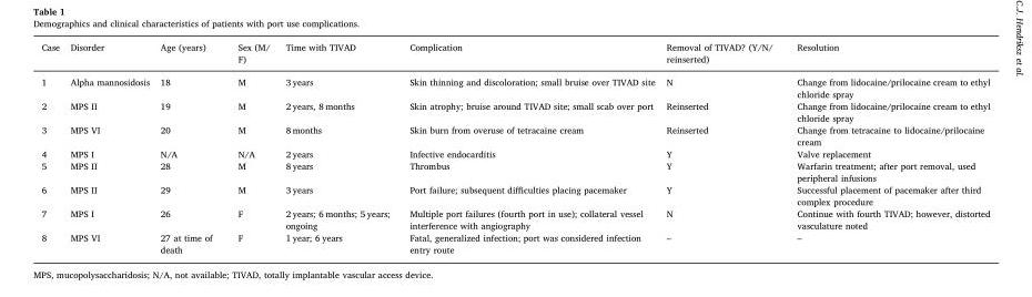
<table><thead><tr><td>Case</td><td>Disorder</td><td>Age (years)</td><td>Sex (M/ F)</td><td>Time with TIVAD</td><td>Complication</td><td>Removal of TIVAD? (Y/N/ reinserted)</td><td>Resolution</td></tr></thead><tbody><tr><td>1</td><td>Alpha mannosidosis</td><td>18</td><td>M</td><td>3 years</td><td>Skin thinning and discoloration; small bruise over TIVAD site</td><td>N</td><td>Change from lidocaine/prilocaine cream to ethyl chloride spray</td></tr><tr><td>2</td><td>MPS II</td><td>19</td><td>M</td><td>2 years, 8 months</td><td>Skin atrophy; bruise around TIVAD site; small scab over port</td><td>Reinserted</td><td>Change from lidocaine/prilocaine cream to ethyl chloride spray</td></tr><tr><td>3</td><td>MPS VI</td><td>20</td><td>M</td><td>8 months</td><td>Skin burn from overuse of tetracaine cream</td><td>Reinserted</td><td>Change from tetracaine to lidocaine/prilocaine cream</td></tr><tr><td>4</td><td>MPS I</td><td>N/A</td><td>N/A</td><td>2 years</td><td>Infective endocarditis</td><td>Y</td><td>Valve replacement</td></tr><tr><td>5</td><td>MPS II</td><td>28</td><td>M</td><td>8 years</td><td>Thrombus</td><td>Y</td><td>Warfarin treatment; after port removal, used peripheral infusions</td></tr><tr><td>6</td><td>MPS II</td><td>29</td><td>M</td><td>3 years</td><td>Port failure; subsequent difficulties placing pacemaker</td><td>Y</td><td>Successful placement of pacemaker after third complex procedure</td></tr><tr><td>7</td><td>MPS I</td><td>26</td><td>F</td><td>2 years; 6 months; 5 years; ongoing</td><td>Multiple port failures (fourth port in use); collateral vessel interference with angiography</td><td>N</td><td>Continue with fourth TIVAD; however, distorted vasculature noted</td></tr><tr><td>8</td><td>MPS VI</td><td>27 at time of death</td><td>F</td><td>1 year; 6 years</td><td>Fatal, generalized infection; port was considered infection entry route</td><td>–</td><td>–</td></tr></tbody></table>